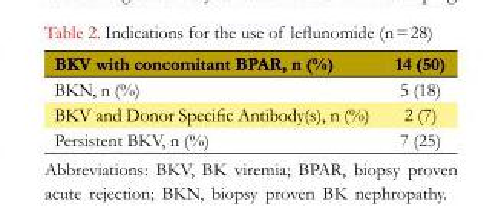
<table><tbody><tr><td>BKV with concomitant BPAR, n (%)</td><td>14 (50)</td></tr><tr><td>BKN, n (%)</td><td>5 (18)</td></tr><tr><td>BKV and Donor Specific Antibody(s), n (%)</td><td>2 (7)</td></tr><tr><td>Persistent BKV, n (%)</td><td>7 (25)</td></tr></tbody></table>